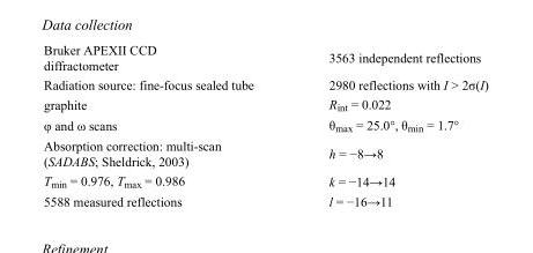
<table><tbody><tr><td>Bruker APEXII CCD diffractometer</td><td>3563 independent reflections</td></tr><tr><td>Radiation source: fine-focus sealed tube</td><td>2980 reflections with I &gt; 2σ(I)</td></tr><tr><td>graphite</td><td>R<sub>int</sub> = 0.022</td></tr><tr><td>φ and ω scans</td><td>θ<sub>max</sub> = 25.0°, θ<sub>min</sub> = 1.7°</td></tr><tr><td>Absorption correction: multi-scan (SADABS; Sheldrick, 2003)</td><td>h = −8→8</td></tr><tr><td>T<sub>min</sub> = 0.976, T<sub>max</sub> = 0.986</td><td>k = −14→14</td></tr><tr><td>5588 measured reflections</td><td>l = −16→11</td></tr></tbody></table>